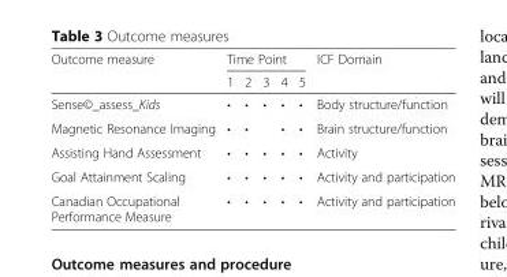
<table><thead><tr><td rowspan="2">Outcome measure</td><td colspan="5">Time Point</td><td rowspan="2">ICF Domain</td></tr><tr><td>1</td><td>2</td><td>3</td><td>4</td><td>5</td></tr></thead><tbody><tr><td>Sense©_assess_Kids</td><td>•</td><td>•</td><td>•</td><td>•</td><td>•</td><td>Body structure/function</td></tr><tr><td>Magnetic Resonance Imaging</td><td>•</td><td>•</td><td></td><td>•</td><td>•</td><td>Brain structure/function</td></tr><tr><td>Assisting Hand Assessment</td><td>•</td><td>•</td><td>•</td><td>•</td><td>•</td><td>Activity</td></tr><tr><td>Goal Attainment Scaling</td><td>•</td><td>•</td><td>•</td><td>•</td><td>•</td><td>Activity and participation</td></tr><tr><td>Canadian Occupational Performance Measure</td><td>•</td><td>•</td><td>•</td><td>•</td><td>•</td><td>Activity and participation</td></tr></tbody></table>